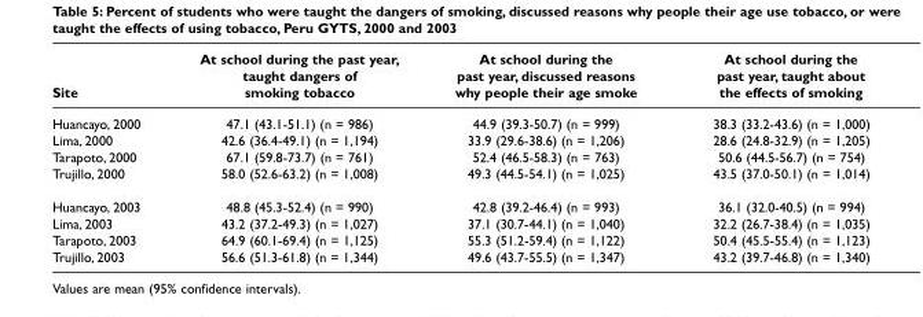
<table><thead><tr><td>Site</td><td>At school during the past year, taught dangers of smoking tobacco</td><td>At school during the past year, discussed reasons why people their age smoke</td><td>At school during the past year, taught about the effects of smoking</td></tr></thead><tbody><tr><td>Huancayo, 2000</td><td>47.1 (43.1-51.1) (n = 986)</td><td>44.9 (39.3-50.7) (n = 999)</td><td>38.3 (33.2-43.6) (n = 1,000)</td></tr><tr><td>Lima, 2000</td><td>42.6 (36.4-49.1) (n = 1,194)</td><td>33.9 (29.6-38.6) (n = 1,206)</td><td>28.6 (24.8-32.9) (n = 1,205)</td></tr><tr><td>Tarapoto, 2000</td><td>67.1 (59.8-73.7) (n = 761)</td><td>52.4 (46.5-58.3) (n = 763)</td><td>50.6 (44.5-56.7) (n = 754)</td></tr><tr><td>Trujillo, 2000</td><td>58.0 (52.6-63.2) (n = 1,008)</td><td>49.3 (44.5-54.1) (n = 1,025)</td><td>43.5 (37.0-50.1) (n = 1,014)</td></tr><tr><td>Huancayo, 2003</td><td>48.8 (45.3-52.4) (n = 990)</td><td>42.8 (39.2-46.4) (n = 993)</td><td>36.1 (32.0-40.5) (n = 994)</td></tr><tr><td>Lima, 2003</td><td>43.2 (37.2-49.3) (n = 1,027)</td><td>37.1 (30.7-44.1) (n = 1,040)</td><td>32.2 (26.7-38.4) (n = 1,035)</td></tr><tr><td>Tarapoto, 2003</td><td>64.9 (60.1-69.4) (n = 1,125)</td><td>55.3 (51.2-59.4) (n = 1,122)</td><td>50.4 (45.5-55.4) (n = 1,123)</td></tr><tr><td>Trujillo, 2003</td><td>56.6 (51.3-61.8) (n = 1,344)</td><td>49.6 (43.7-55.5) (n = 1,347)</td><td>43.2 (39.7-46.8) (n = 1,340)</td></tr></tbody></table>